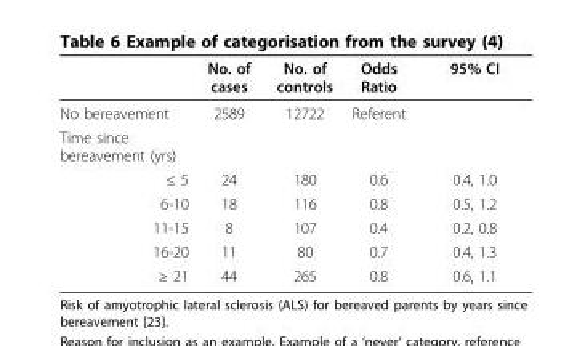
<table><thead><tr><td></td><td>No. of cases</td><td>No. of controls</td><td>Odds Ratio</td><td>95% CI</td></tr></thead><tbody><tr><td>No bereavement</td><td>2589</td><td>12722</td><td>Referent</td><td></td></tr><tr><td colspan="5">Time since bereavement (yrs)</td></tr><tr><td>≤ 5</td><td>24</td><td>180</td><td>0.6</td><td>0.4, 1.0</td></tr><tr><td>6-10</td><td>18</td><td>116</td><td>0.8</td><td>0.5, 1.2</td></tr><tr><td>11-15</td><td>8</td><td>107</td><td>0.4</td><td>0.2, 0.8</td></tr><tr><td>16-20</td><td>11</td><td>80</td><td>0.7</td><td>0.4, 1.3</td></tr><tr><td>≥ 21</td><td>44</td><td>265</td><td>0.8</td><td>0.6, 1.1</td></tr></tbody></table>